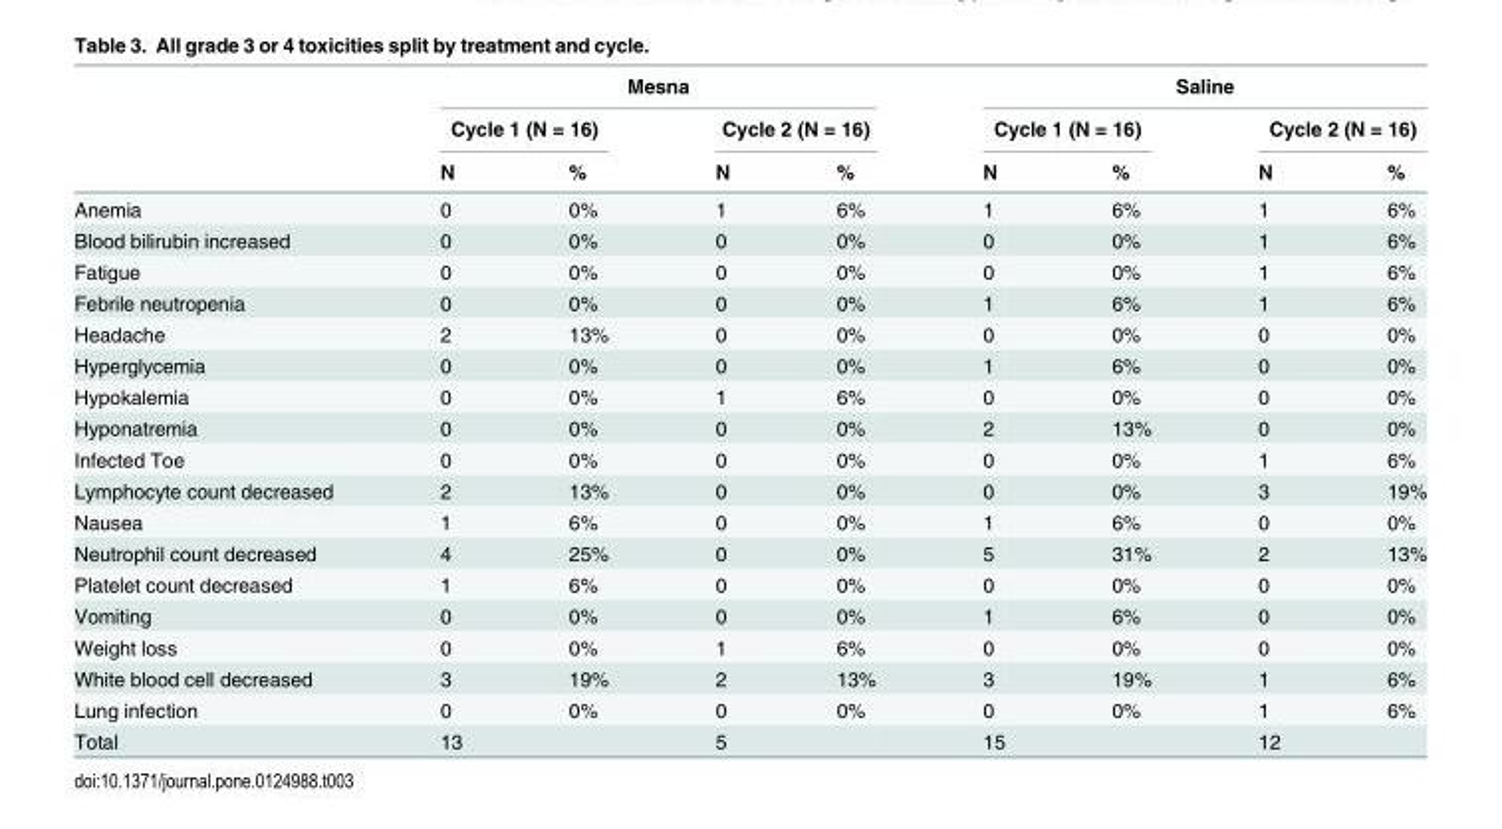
<table><thead><tr><td rowspan="3"></td><td colspan="4">Mesna</td><td colspan="4">Saline</td></tr><tr><td colspan="2">Cycle 1 (N = 16)</td><td colspan="2">Cycle 2 (N = 16)</td><td colspan="2">Cycle 1 (N = 16)</td><td colspan="2">Cycle 2 (N = 16)</td></tr><tr><td>N</td><td>%</td><td>N</td><td>%</td><td>N</td><td>%</td><td>N</td><td>%</td></tr></thead><tbody><tr><td>Anemia</td><td>0</td><td>0%</td><td>1</td><td>6%</td><td>1</td><td>6%</td><td>1</td><td>6%</td></tr><tr><td>Blood bilirubin increased</td><td>0</td><td>0%</td><td>0</td><td>0%</td><td>0</td><td>0%</td><td>1</td><td>6%</td></tr><tr><td>Fatigue</td><td>0</td><td>0%</td><td>0</td><td>0%</td><td>0</td><td>0%</td><td>1</td><td>6%</td></tr><tr><td>Febrile neutropenia</td><td>0</td><td>0%</td><td>0</td><td>0%</td><td>1</td><td>6%</td><td>1</td><td>6%</td></tr><tr><td>Headache</td><td>2</td><td>13%</td><td>0</td><td>0%</td><td>0</td><td>0%</td><td>0</td><td>0%</td></tr><tr><td>Hyperglycemia</td><td>0</td><td>0%</td><td>0</td><td>0%</td><td>1</td><td>6%</td><td>0</td><td>0%</td></tr><tr><td>Hypokalemia</td><td>0</td><td>0%</td><td>1</td><td>6%</td><td>0</td><td>0%</td><td>0</td><td>0%</td></tr><tr><td>Hyponatremia</td><td>0</td><td>0%</td><td>0</td><td>0%</td><td>2</td><td>13%</td><td>0</td><td>0%</td></tr><tr><td>Infected Toe</td><td>0</td><td>0%</td><td>0</td><td>0%</td><td>0</td><td>0%</td><td>1</td><td>6%</td></tr><tr><td>Lymphocyte count decreased</td><td>2</td><td>13%</td><td>0</td><td>0%</td><td>0</td><td>0%</td><td>3</td><td>19%</td></tr><tr><td>Nausea</td><td>1</td><td>6%</td><td>0</td><td>0%</td><td>1</td><td>6%</td><td>0</td><td>0%</td></tr><tr><td>Neutrophil count decreased</td><td>4</td><td>25%</td><td>0</td><td>0%</td><td>5</td><td>31%</td><td>2</td><td>13%</td></tr><tr><td>Platelet count decreased</td><td>1</td><td>6%</td><td>0</td><td>0%</td><td>0</td><td>0%</td><td>0</td><td>0%</td></tr><tr><td>Vomiting</td><td>0</td><td>0%</td><td>0</td><td>0%</td><td>1</td><td>6%</td><td>0</td><td>0%</td></tr><tr><td>Weight loss</td><td>0</td><td>0%</td><td>1</td><td>6%</td><td>0</td><td>0%</td><td>0</td><td>0%</td></tr><tr><td>White blood cell decreased</td><td>3</td><td>19%</td><td>2</td><td>13%</td><td>3</td><td>19%</td><td>1</td><td>6%</td></tr><tr><td>Lung infection</td><td>0</td><td>0%</td><td>0</td><td>0%</td><td>0</td><td>0%</td><td>1</td><td>6%</td></tr><tr><td>Total</td><td>13</td><td></td><td>5</td><td></td><td>15</td><td></td><td>12</td><td></td></tr></tbody></table>